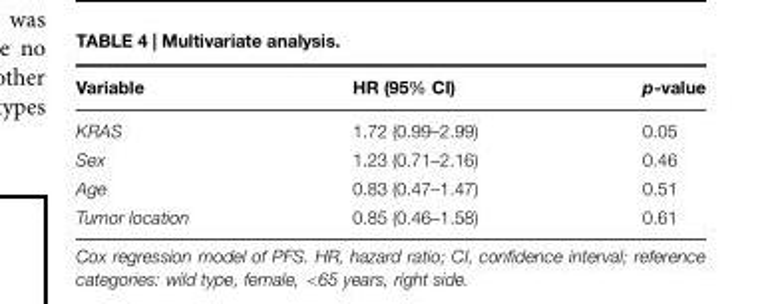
<table><thead><tr><td>Variable</td><td>HR (95% CI)</td><td>p-value</td></tr></thead><tbody><tr><td>KRAS</td><td>1.72 (0.99–2.99)</td><td>0.05</td></tr><tr><td>Sex</td><td>1.23 (0.71–2.16)</td><td>0.46</td></tr><tr><td>Age</td><td>0.83 (0.47–1.47)</td><td>0.51</td></tr><tr><td>Tumor location</td><td>0.85 (0.46–1.58)</td><td>0.61</td></tr></tbody></table>